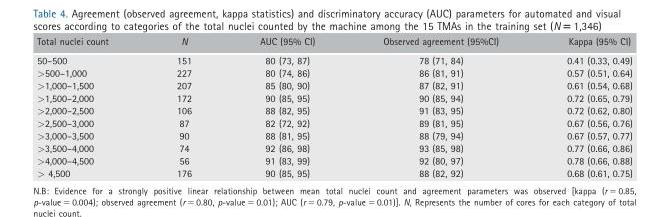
<table><thead><tr><td>Total nuclei count</td><td>N</td><td>AUC (95% CI)</td><td>Observed agreement (95%CI)</td><td>Kappa (95% CI)</td></tr></thead><tbody><tr><td>50–500</td><td>151</td><td>80 (73, 87)</td><td>78 (71, 84)</td><td>0.41 (0.33, 0.49)</td></tr><tr><td>&gt;500–1,000</td><td>227</td><td>80 (74, 86)</td><td>86 (81, 91)</td><td>0.57 (0.51, 0.64)</td></tr><tr><td>&gt;1,000–1,500</td><td>207</td><td>85 (80, 90)</td><td>87 (82, 91)</td><td>0.61 (0.54, 0.68)</td></tr><tr><td>&gt;1,500–2,000</td><td>172</td><td>90 (85, 95)</td><td>90 (85, 94)</td><td>0.72 (0.65, 0.79)</td></tr><tr><td>&gt;2,000–2,500</td><td>106</td><td>88 (82, 95)</td><td>91 (83, 95)</td><td>0.72 (0.62, 0.80)</td></tr><tr><td>&gt;2,500–3,000</td><td>87</td><td>82 (72, 92)</td><td>89 (81, 95)</td><td>0.67 (0.56, 0.76)</td></tr><tr><td>&gt;3,000–3,500</td><td>90</td><td>88 (81, 95)</td><td>88 (79, 94)</td><td>0.67 (0.57, 0.77)</td></tr><tr><td>&gt;3,500–4,000</td><td>74</td><td>92 (86, 98)</td><td>93 (85, 98)</td><td>0.77 (0.66, 0.86)</td></tr><tr><td>&gt;4,000–4,500</td><td>56</td><td>91 (83, 99)</td><td>92 (80, 97)</td><td>0.78 (0.66, 0.88)</td></tr><tr><td>&gt; 4,500</td><td>176</td><td>90 (85, 95)</td><td>88 (82, 92)</td><td>0.68 (0.61, 0.75)</td></tr></tbody></table>